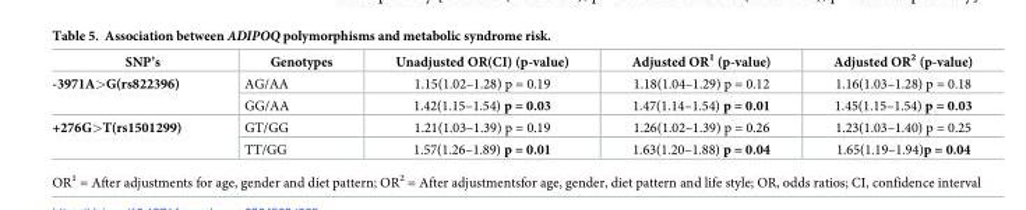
<table><thead><tr><td>SNP’s</td><td>Genotypes</td><td>Unadjusted OR(CI) (p-value)</td><td>Adjusted OR<sup>1</sup> (p-value)</td><td>Adjusted OR<sup>2</sup> (p-value)</td></tr></thead><tbody><tr><td rowspan="2">-3971A&gt;G(rs822396)</td><td>AG/AA</td><td>1.15(1.02–1.28) p = 0.19</td><td>1.18(1.04–1.29) p = 0.12</td><td>1.16(1.03–1.28) p = 0.18</td></tr><tr><td>GG/AA</td><td>1.42(1.15–1.54) p = 0.03</td><td>1.47(1.14–1.54) p = 0.01</td><td>1.45(1.15–1.54) p = 0.03</td></tr><tr><td rowspan="2">+276G&gt;T(rs1501299)</td><td>GT/GG</td><td>1.21(1.03–1.39) p = 0.19</td><td>1.26(1.02–1.39) p = 0.26</td><td>1.23(1.03–1.40) p = 0.25</td></tr><tr><td>TT/GG</td><td>1.57(1.26–1.89) p = 0.01</td><td>1.63(1.20–1.88) p = 0.04</td><td>1.65(1.19–1.94)p = 0.04</td></tr></tbody></table>